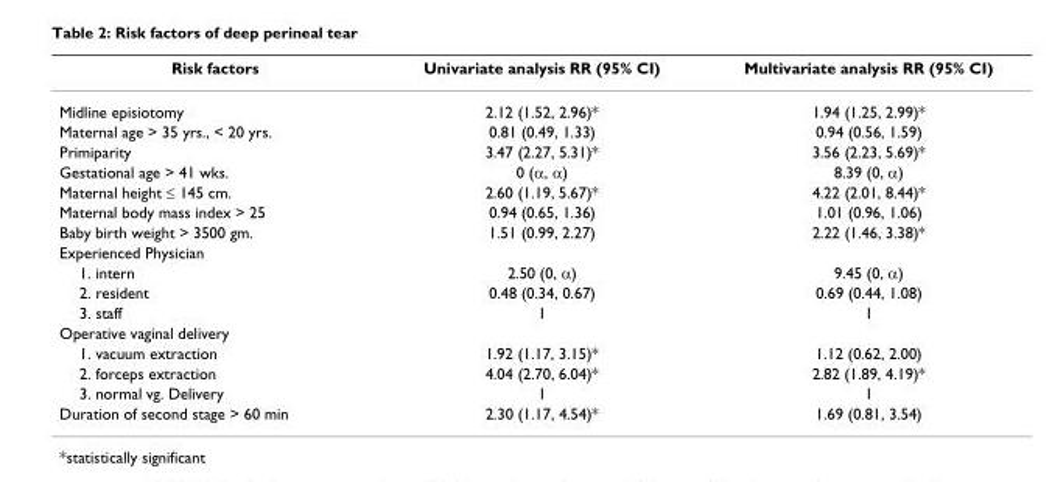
<table><thead><tr><td>Risk factors</td><td>Univariate analysis RR (95% CI)</td><td>Multivariate analysis RR (95% CI)</td></tr></thead><tbody><tr><td>Midline episiotomy</td><td>2.12 (1.52, 2.96)*</td><td>1.94 (1.25, 2.99)*</td></tr><tr><td>Maternal age &gt; 35 yrs., &lt; 20 yrs.</td><td>0.81 (0.49, 1.33)</td><td>0.94 (0.56, 1.59)</td></tr><tr><td>Primiparity</td><td>3.47 (2.27, 5.31)*</td><td>3.56 (2.23, 5.69)*</td></tr><tr><td>Gestational age &gt; 41 wks.</td><td>0 (α, α)</td><td>8.39 (0, α)</td></tr><tr><td>Maternal height ≤ 145 cm.</td><td>2.60 (1.19, 5.67)*</td><td>4.22 (2.01, 8.44)*</td></tr><tr><td>Maternal body mass index &gt; 25</td><td>0.94 (0.65, 1.36)</td><td>1.01 (0.96, 1.06)</td></tr><tr><td>Baby birth weight &gt; 3500 gm.</td><td>1.51 (0.99, 2.27)</td><td>2.22 (1.46, 3.38)*</td></tr><tr><td colspan="3">Experienced Physician</td></tr><tr><td>1. intern</td><td>2.50 (0, α)</td><td>9.45 (0, α)</td></tr><tr><td>2. resident</td><td>0.48 (0.34, 0.67)</td><td>0.69 (0.44, 1.08)</td></tr><tr><td>3. staff</td><td>1</td><td>1</td></tr><tr><td colspan="3">Operative vaginal delivery</td></tr><tr><td>1. vacuum extraction</td><td>1.92 (1.17, 3.15)*</td><td>1.12 (0.62, 2.00)</td></tr><tr><td>2. forceps extraction</td><td>4.04 (2.70, 6.04)*</td><td>2.82 (1.89, 4.19)*</td></tr><tr><td>3. normal vg. Delivery</td><td>1</td><td>1</td></tr><tr><td>Duration of second stage &gt; 60 min</td><td>2.30 (1.17, 4.54)*</td><td>1.69 (0.81, 3.54)</td></tr></tbody></table>